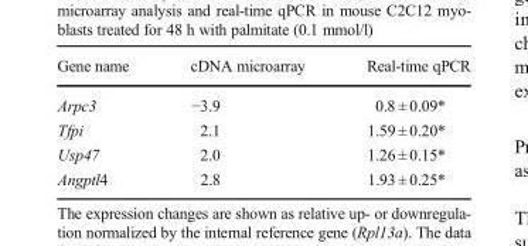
<table><thead><tr><td>Gene name</td><td>cDNA microarray</td><td>Real-time qPCR</td></tr></thead><tbody><tr><td>Arpc3</td><td>−3.9</td><td>0.8 ± 0.09*</td></tr><tr><td>Tfpi</td><td>2.1</td><td>1.59 ± 0.20*</td></tr><tr><td>Usp47</td><td>2.0</td><td>1.26 ± 0.15*</td></tr><tr><td>Angptl4</td><td>2.8</td><td>1.93 ± 0.25*</td></tr></tbody></table>